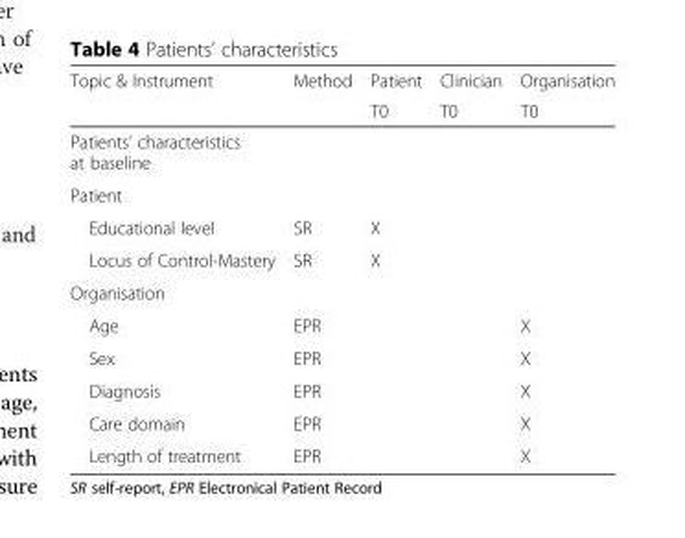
<table><thead><tr><td rowspan="2">Topic &amp; Instrument</td><td rowspan="2">Method</td><td rowspan="2">Patient T0</td><td rowspan="2">Clinician T0</td><td rowspan="2">Organisation T0</td></tr><tr></tr></thead><tbody><tr><td colspan="5">Patients’ characteristics at baseline</td></tr><tr><td colspan="5">Patient</td></tr><tr><td>Educational level</td><td>SR</td><td>X</td><td></td><td></td></tr><tr><td>Locus of Control-Mastery</td><td>SR</td><td>X</td><td></td><td></td></tr><tr><td colspan="5">Organisation</td></tr><tr><td>Age</td><td>EPR</td><td></td><td></td><td>X</td></tr><tr><td>Sex</td><td>EPR</td><td></td><td></td><td>X</td></tr><tr><td>Diagnosis</td><td>EPR</td><td></td><td></td><td>X</td></tr><tr><td>Care domain</td><td>EPR</td><td></td><td></td><td>X</td></tr><tr><td>Length of treatment</td><td>EPR</td><td></td><td></td><td>X</td></tr></tbody></table>